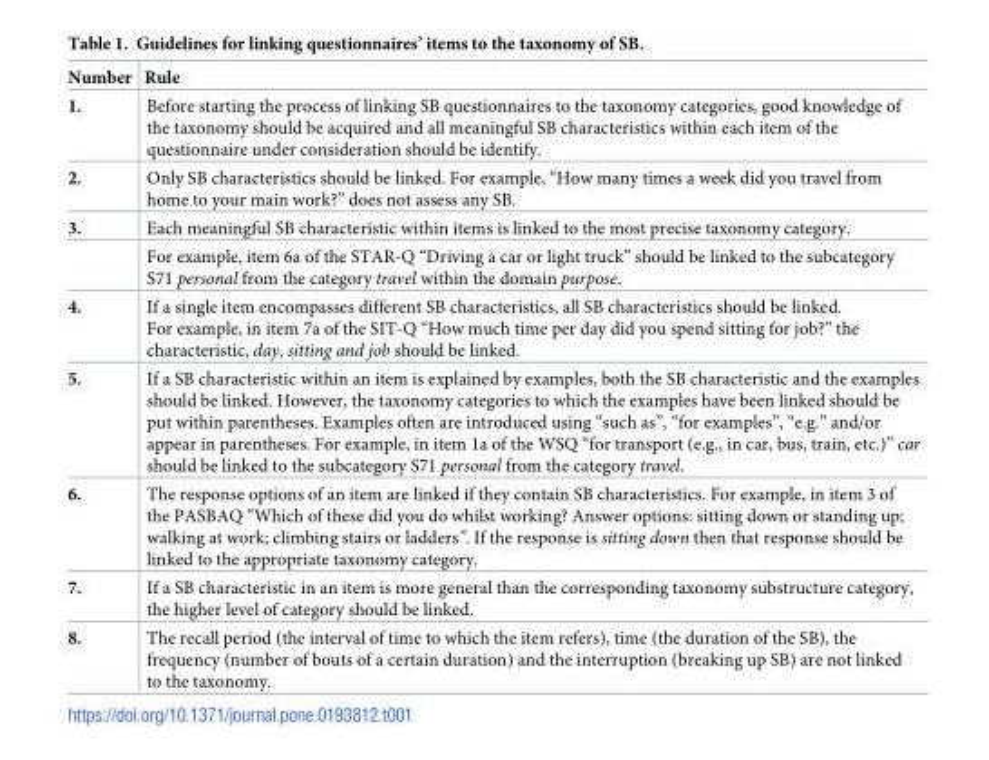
<table><thead><tr><td>Number</td><td>Rule</td></tr></thead><tbody><tr><td>1.</td><td>Before starting the process of linking SB questionnaires to the taxonomy categories, good knowledge of the taxonomy should be acquired and all meaningful SB characteristics within each item of the questionnaire under consideration should be identify.</td></tr><tr><td>2.</td><td>Only SB characteristics should be linked. For example, “How many times a week did you travel from home to your main work?” does not assess any SB.</td></tr><tr><td rowspan="2">3.</td><td>Each meaningful SB characteristic within items is linked to the most precise taxonomy category.</td></tr><tr><td>For example, item 6a of the STAR-Q “Driving a car or light truck” should be linked to the subcategory S71 personal from the category travel within the domain purpose.</td></tr><tr><td>4.</td><td>If a single item encompasses different SB characteristics, all SB characteristics should be linked. For example, in item 7a of the SIT-Q “How much time per day did you spend sitting for job?” the characteristic, day, sitting and job should be linked.</td></tr><tr><td>5.</td><td>If a SB characteristic within an item is explained by examples, both the SB characteristic and the examples should be linked. However, the taxonomy categories to which the examples have been linked should be put within parentheses. Examples often are introduced using “such as”, “for examples”, “e.g.” and/or appear in parentheses. For example, in item 1a of the WSQ “for transport (e.g., in car, bus, train, etc.)” car should be linked to the subcategory S71 personal from the category travel.</td></tr><tr><td>6.</td><td>The response options of an item are linked if they contain SB characteristics. For example, in item 3 of the PASBAQ “Which of these did you do whilst working? Answer options: sitting down or standing up; walking at work; climbing stairs or ladders”. If the response is sitting down then that response should be linked to the appropriate taxonomy category.</td></tr><tr><td>7.</td><td>If a SB characteristic in an item is more general than the corresponding taxonomy substructure category, the higher level of category should be linked.</td></tr><tr><td>8.</td><td>The recall period (the interval of time to which the item refers), time (the duration of the SB), the frequency (number of bouts of a certain duration) and the interruption (breaking up SB) are not linked to the taxonomy.</td></tr></tbody></table>